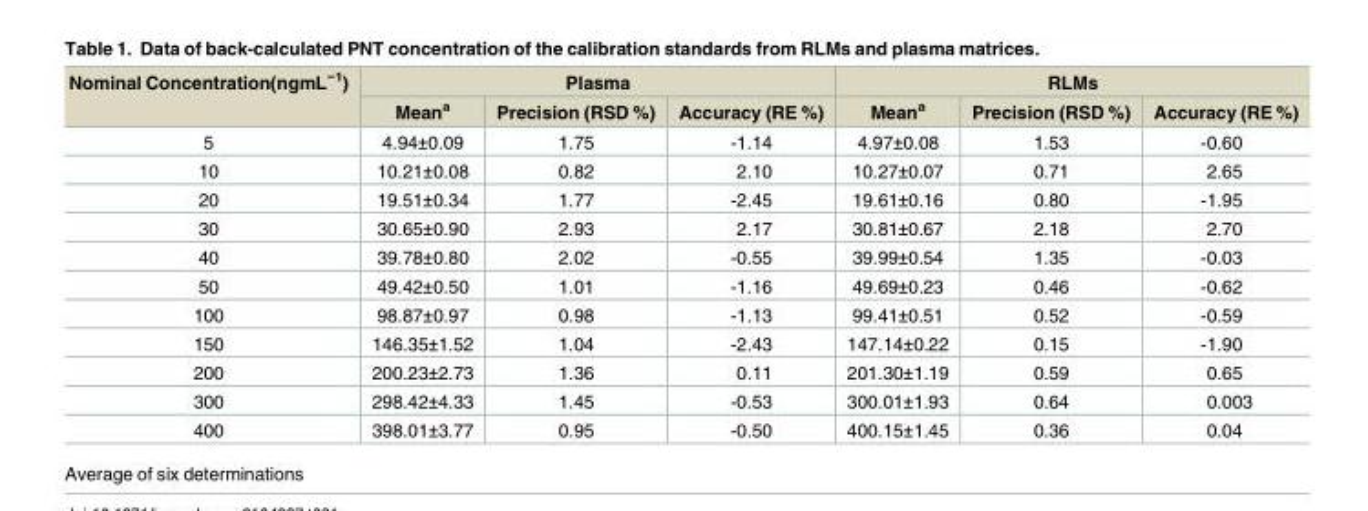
<table><thead><tr><td rowspan="2">Nominal Concentration(ngmL<sup>−1</sup>)</td><td colspan="3">Plasma</td><td colspan="3">RLMs</td></tr><tr><td>Mean<sup>a</sup></td><td>Precision (RSD %)</td><td>Accuracy (RE %)</td><td>Mean<sup>a</sup></td><td>Precision (RSD %)</td><td>Accuracy (RE %)</td></tr></thead><tbody><tr><td>5</td><td>4.94±0.09</td><td>1.75</td><td>-1.14</td><td>4.97±0.08</td><td>1.53</td><td>-0.60</td></tr><tr><td>10</td><td>10.21±0.08</td><td>0.82</td><td>2.10</td><td>10.27±0.07</td><td>0.71</td><td>2.65</td></tr><tr><td>20</td><td>19.51±0.34</td><td>1.77</td><td>-2.45</td><td>19.61±0.16</td><td>0.80</td><td>-1.95</td></tr><tr><td>30</td><td>30.65±0.90</td><td>2.93</td><td>2.17</td><td>30.81±0.67</td><td>2.18</td><td>2.70</td></tr><tr><td>40</td><td>39.78±0.80</td><td>2.02</td><td>-0.55</td><td>39.99±0.54</td><td>1.35</td><td>-0.03</td></tr><tr><td>50</td><td>49.42±0.50</td><td>1.01</td><td>-1.16</td><td>49.69±0.23</td><td>0.46</td><td>-0.62</td></tr><tr><td>100</td><td>98.87±0.97</td><td>0.98</td><td>-1.13</td><td>99.41±0.51</td><td>0.52</td><td>-0.59</td></tr><tr><td>150</td><td>146.35±1.52</td><td>1.04</td><td>-2.43</td><td>147.14±0.22</td><td>0.15</td><td>-1.90</td></tr><tr><td>200</td><td>200.23±2.73</td><td>1.36</td><td>0.11</td><td>201.30±1.19</td><td>0.59</td><td>0.65</td></tr><tr><td>300</td><td>298.42±4.33</td><td>1.45</td><td>-0.53</td><td>300.01±1.93</td><td>0.64</td><td>0.003</td></tr><tr><td>400</td><td>398.01±3.77</td><td>0.95</td><td>-0.50</td><td>400.15±1.45</td><td>0.36</td><td>0.04</td></tr></tbody></table>